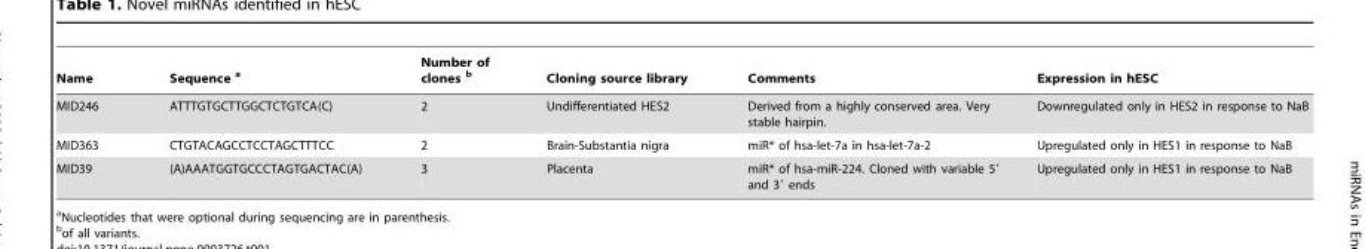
<table><thead><tr><td>Name</td><td>Sequence a</td><td>Number of clones b</td><td>Cloning source library</td><td>Comments</td><td>Expression in hESC</td></tr></thead><tbody><tr><td>MID246</td><td>ATTTGTGCTTGGCTCTGTCA(C)</td><td>2</td><td>Undifferentiated HES2</td><td>Derived from a highly conserved area. Very stable hairpin.</td><td>Downregulated only in HES2 in response to NaB</td></tr><tr><td>MID363</td><td>CTGTACAGCCTCCTAGCTTTCC</td><td>2</td><td>Brain-Substantia nigra</td><td>miR* of hsa-let-7a in hsa-let-7a-2</td><td>Upregulated only in HES1 in response to NaB</td></tr><tr><td>MID39</td><td>(A)AAATGGTGCCCTAGTGACTAC(A)</td><td>3</td><td>Placenta</td><td>miR* of hsa-miR-224. Cloned with variable 5′ and 3′ ends</td><td>Upregulated only in HES1 in response to NaB</td></tr></tbody></table>